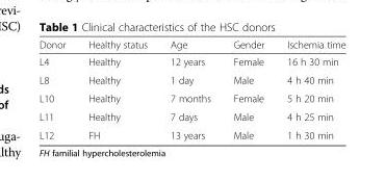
<table><thead><tr><td>Donor</td><td>Healthy status</td><td>Age</td><td>Gender</td><td>Ischemia time</td></tr></thead><tbody><tr><td>L4</td><td>Healthy</td><td>12 years</td><td>Female</td><td>16 h 30 min</td></tr><tr><td>L8</td><td>Healthy</td><td>1 day</td><td>Male</td><td>4 h 40 min</td></tr><tr><td>L10</td><td>Healthy</td><td>7 months</td><td>Female</td><td>5 h 20 min</td></tr><tr><td>L11</td><td>Healthy</td><td>7 days</td><td>Male</td><td>4 h 25 min</td></tr><tr><td>L12</td><td>FH</td><td>13 years</td><td>Male</td><td>1 h 30 min</td></tr></tbody></table>